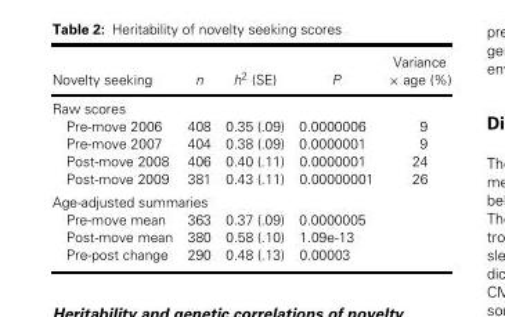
<table><thead><tr><td>Novelty seeking</td><td>n</td><td>h<sup>2</sup> (SE)</td><td>P</td><td>Variance × age (%)</td></tr></thead><tbody><tr><td colspan="5">Raw scores</td></tr><tr><td>Pre-move 2006</td><td>408</td><td>0.35 (.09)</td><td>0.0000006</td><td>9</td></tr><tr><td>Pre-move 2007</td><td>404</td><td>0.38 (.09)</td><td>0.0000001</td><td>9</td></tr><tr><td>Post-move 2008</td><td>406</td><td>0.40 (.11)</td><td>0.0000001</td><td>24</td></tr><tr><td>Post-move 2009</td><td>381</td><td>0.43 (.11)</td><td>0.00000001</td><td>26</td></tr><tr><td colspan="5">Age-adjusted summaries</td></tr><tr><td>Pre-move mean</td><td>363</td><td>0.37 (.09)</td><td>0.0000005</td><td></td></tr><tr><td>Post-move mean</td><td>380</td><td>0.58 (.10)</td><td>1.09e-13</td><td></td></tr><tr><td>Pre-post change</td><td>290</td><td>0.48 (.13)</td><td>0.00003</td><td></td></tr></tbody></table>